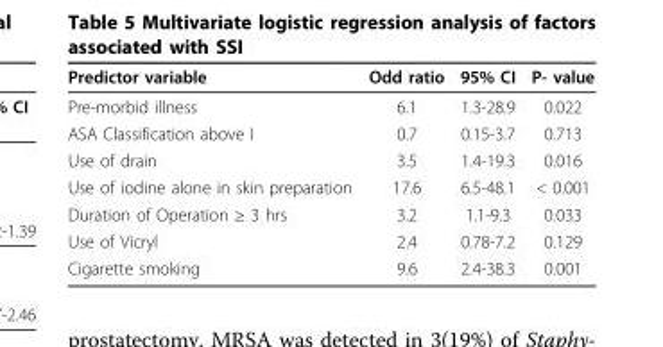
<table><thead><tr><td>Predictor variable</td><td>Odd ratio</td><td>95% CI</td><td>P- value</td></tr></thead><tbody><tr><td>Pre-morbid illness</td><td>6.1</td><td>1.3-28.9</td><td>0.022</td></tr><tr><td>ASA Classification above I</td><td>0.7</td><td>0.15-3.7</td><td>0.713</td></tr><tr><td>Use of drain</td><td>3.5</td><td>1.4-19.3</td><td>0.016</td></tr><tr><td>Use of iodine alone in skin preparation</td><td>17.6</td><td>6.5-48.1</td><td>&lt; 0.001</td></tr><tr><td>Duration of Operation ≥ 3 hrs</td><td>3.2</td><td>1.1-9.3</td><td>0.033</td></tr><tr><td>Use of Vicryl</td><td>2.4</td><td>0.78-7.2</td><td>0.129</td></tr><tr><td>Cigarette smoking</td><td>9.6</td><td>2.4-38.3</td><td>0.001</td></tr></tbody></table>